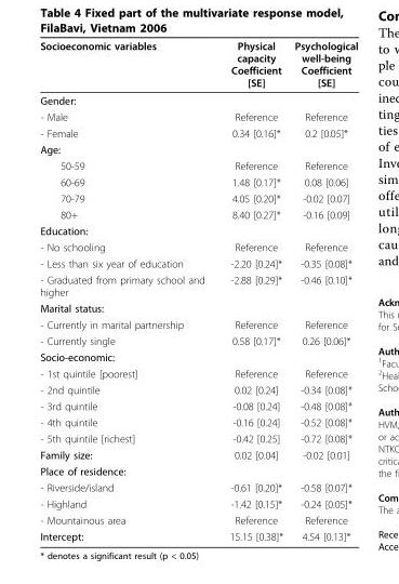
<table><thead><tr><td>Socioeconomic variables</td><td>Physical capacity Coefficient [SE]</td><td>Psychological well-being Coefficient [SE]</td></tr></thead><tbody><tr><td colspan="3">Gender:</td></tr><tr><td>- Male</td><td>Reference</td><td>Reference</td></tr><tr><td>- Female</td><td>0.34 [0.16]*</td><td>0.2 [0.05]*</td></tr><tr><td colspan="3">Age:</td></tr><tr><td>50-59</td><td>Reference</td><td>Reference</td></tr><tr><td>60-69</td><td>1.48 [0.17]*</td><td>0.08 [0.06]</td></tr><tr><td>70-79</td><td>4.05 [0.20]*</td><td>-0.02 [0.07]</td></tr><tr><td>80+</td><td>8.40 [0.27]*</td><td>-0.16 [0.09]</td></tr><tr><td colspan="3">Education:</td></tr><tr><td>- No schooling</td><td>Reference</td><td>Reference</td></tr><tr><td>- Less than six year of education</td><td>-2.20 [0.24]*</td><td>-0.35 [0.08]*</td></tr><tr><td>- Graduated from primary school and higher</td><td>-2.88 [0.29]*</td><td>-0.46 [0.10]*</td></tr><tr><td colspan="3">Marital status:</td></tr><tr><td>- Currently in marital partnership</td><td>Reference</td><td>Reference</td></tr><tr><td>- Currently single</td><td>0.58 [0.17]*</td><td>0.26 [0.06]*</td></tr><tr><td colspan="3">Socio-economic:</td></tr><tr><td>- 1st quintile [poorest]</td><td>Reference</td><td>Reference</td></tr><tr><td>- 2nd quintile</td><td>0.02 [0.24]</td><td>-0.34 [0.08]*</td></tr><tr><td>- 3rd quintile</td><td>-0.08 [0.24]</td><td>-0.48 [0.08]*</td></tr><tr><td>- 4th quintile</td><td>-0.16 [0.24]</td><td>-0.52 [0.08]*</td></tr><tr><td>- 5th quintile [richest]</td><td>-0.42 [0.25]</td><td>-0.72 [0.08]*</td></tr><tr><td>Family size:</td><td>0.02 [0.04]</td><td>-0.02 [0.01]</td></tr><tr><td colspan="3">Place of residence:</td></tr><tr><td>- Riverside/island</td><td>-0.61 [0.20]*</td><td>-0.58 [0.07]*</td></tr><tr><td>- Highland</td><td>-1.42 [0.15]*</td><td>-0.24 [0.05]*</td></tr><tr><td>- Mountainous area</td><td>Reference</td><td>Reference</td></tr><tr><td>Intercept:</td><td>15.15 [0.38]*</td><td>4.54 [0.13]*</td></tr></tbody></table>